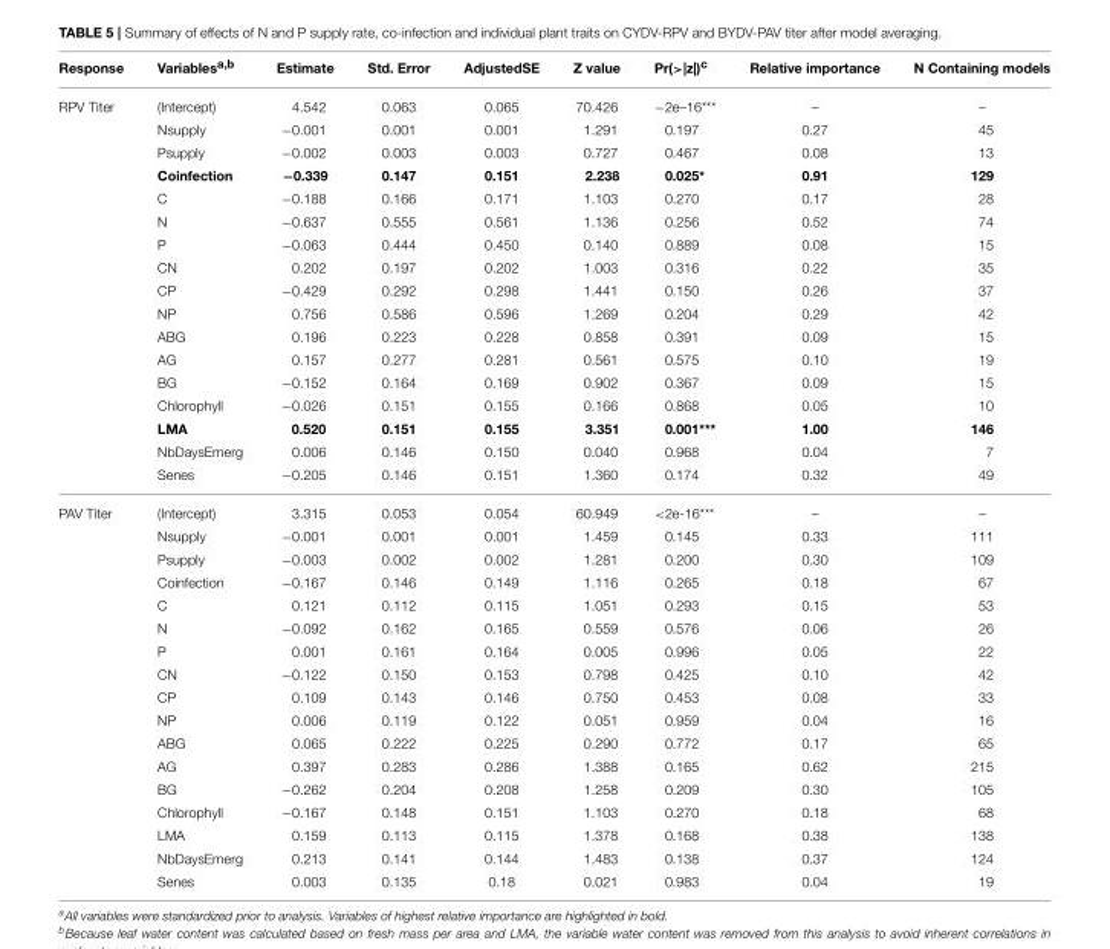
<table><thead><tr><td>Response</td><td>Variables<sup>a,b</sup></td><td>Estimate</td><td>Std. Error</td><td>AdjustedSE</td><td>Z value</td><td>Pr(&gt;|z|)<sup>c</sup></td><td>Relative importance</td><td>N Containing models</td></tr></thead><tbody><tr><td rowspan="17">RPV Titer</td><td>(Intercept)</td><td>4.542</td><td>0.063</td><td>0.065</td><td>70.426</td><td>−2e–16***</td><td>–</td><td>–</td></tr><tr><td>Nsupply</td><td>−0.001</td><td>0.001</td><td>0.001</td><td>1.291</td><td>0.197</td><td>0.27</td><td>45</td></tr><tr><td>Psupply</td><td>−0.002</td><td>0.003</td><td>0.003</td><td>0.727</td><td>0.467</td><td>0.08</td><td>13</td></tr><tr><td>Coinfection</td><td>−0.339</td><td>0.147</td><td>0.151</td><td>2.238</td><td>0.025*</td><td>0.91</td><td>129</td></tr><tr><td>C</td><td>−0.188</td><td>0.166</td><td>0.171</td><td>1.103</td><td>0.270</td><td>0.17</td><td>28</td></tr><tr><td>N</td><td>−0.637</td><td>0.555</td><td>0.561</td><td>1.136</td><td>0.256</td><td>0.52</td><td>74</td></tr><tr><td>P</td><td>−0.063</td><td>0.444</td><td>0.450</td><td>0.140</td><td>0.889</td><td>0.08</td><td>15</td></tr><tr><td>CN</td><td>0.202</td><td>0.197</td><td>0.202</td><td>1.003</td><td>0.316</td><td>0.22</td><td>35</td></tr><tr><td>CP</td><td>−0.429</td><td>0.292</td><td>0.298</td><td>1.441</td><td>0.150</td><td>0.26</td><td>37</td></tr><tr><td>NP</td><td>0.756</td><td>0.586</td><td>0.596</td><td>1.269</td><td>0.204</td><td>0.29</td><td>42</td></tr><tr><td>ABG</td><td>0.196</td><td>0.223</td><td>0.228</td><td>0.858</td><td>0.391</td><td>0.09</td><td>15</td></tr><tr><td>AG</td><td>0.157</td><td>0.277</td><td>0.281</td><td>0.561</td><td>0.575</td><td>0.10</td><td>19</td></tr><tr><td>BG</td><td>−0.152</td><td>0.164</td><td>0.169</td><td>0.902</td><td>0.367</td><td>0.09</td><td>15</td></tr><tr><td>Chlorophyll</td><td>−0.026</td><td>0.151</td><td>0.155</td><td>0.166</td><td>0.868</td><td>0.05</td><td>10</td></tr><tr><td>LMA</td><td>0.520</td><td>0.151</td><td>0.155</td><td>3.351</td><td>0.001***</td><td>1.00</td><td>146</td></tr><tr><td>NbDaysEmerg</td><td>0.006</td><td>0.146</td><td>0.150</td><td>0.040</td><td>0.968</td><td>0.04</td><td>7</td></tr><tr><td>Senes</td><td>−0.205</td><td>0.146</td><td>0.151</td><td>1.360</td><td>0.174</td><td>0.32</td><td>49</td></tr><tr><td rowspan="17">PAV Titer</td><td>(Intercept)</td><td>3.315</td><td>0.053</td><td>0.054</td><td>60.949</td><td>&lt;2e-16***</td><td>–</td><td>–</td></tr><tr><td>Nsupply</td><td>−0.001</td><td>0.001</td><td>0.001</td><td>1.459</td><td>0.145</td><td>0.33</td><td>111</td></tr><tr><td>Psupply</td><td>−0.003</td><td>0.002</td><td>0.002</td><td>1.281</td><td>0.200</td><td>0.30</td><td>109</td></tr><tr><td>Coinfection</td><td>−0.167</td><td>0.146</td><td>0.149</td><td>1.116</td><td>0.265</td><td>0.18</td><td>67</td></tr><tr><td>C</td><td>0.121</td><td>0.112</td><td>0.115</td><td>1.051</td><td>0.293</td><td>0.15</td><td>53</td></tr><tr><td>N</td><td>−0.092</td><td>0.162</td><td>0.165</td><td>0.559</td><td>0.576</td><td>0.06</td><td>26</td></tr><tr><td>P</td><td>0.001</td><td>0.161</td><td>0.164</td><td>0.005</td><td>0.996</td><td>0.05</td><td>22</td></tr><tr><td>CN</td><td>−0.122</td><td>0.150</td><td>0.153</td><td>0.798</td><td>0.425</td><td>0.10</td><td>42</td></tr><tr><td>CP</td><td>0.109</td><td>0.143</td><td>0.146</td><td>0.750</td><td>0.453</td><td>0.08</td><td>33</td></tr><tr><td>NP</td><td>0.006</td><td>0.119</td><td>0.122</td><td>0.051</td><td>0.959</td><td>0.04</td><td>16</td></tr><tr><td>ABG</td><td>0.065</td><td>0.222</td><td>0.225</td><td>0.290</td><td>0.772</td><td>0.17</td><td>65</td></tr><tr><td>AG</td><td>0.397</td><td>0.283</td><td>0.286</td><td>1.388</td><td>0.165</td><td>0.62</td><td>215</td></tr><tr><td>BG</td><td>−0.262</td><td>0.204</td><td>0.208</td><td>1.258</td><td>0.209</td><td>0.30</td><td>105</td></tr><tr><td>Chlorophyll</td><td>−0.167</td><td>0.148</td><td>0.151</td><td>1.103</td><td>0.270</td><td>0.18</td><td>68</td></tr><tr><td>LMA</td><td>0.159</td><td>0.113</td><td>0.115</td><td>1.378</td><td>0.168</td><td>0.38</td><td>138</td></tr><tr><td>NbDaysEmerg</td><td>0.213</td><td>0.141</td><td>0.144</td><td>1.483</td><td>0.138</td><td>0.37</td><td>124</td></tr><tr><td>Senes</td><td>0.003</td><td>0.135</td><td>0.18</td><td>0.021</td><td>0.983</td><td>0.04</td><td>19</td></tr></tbody></table>